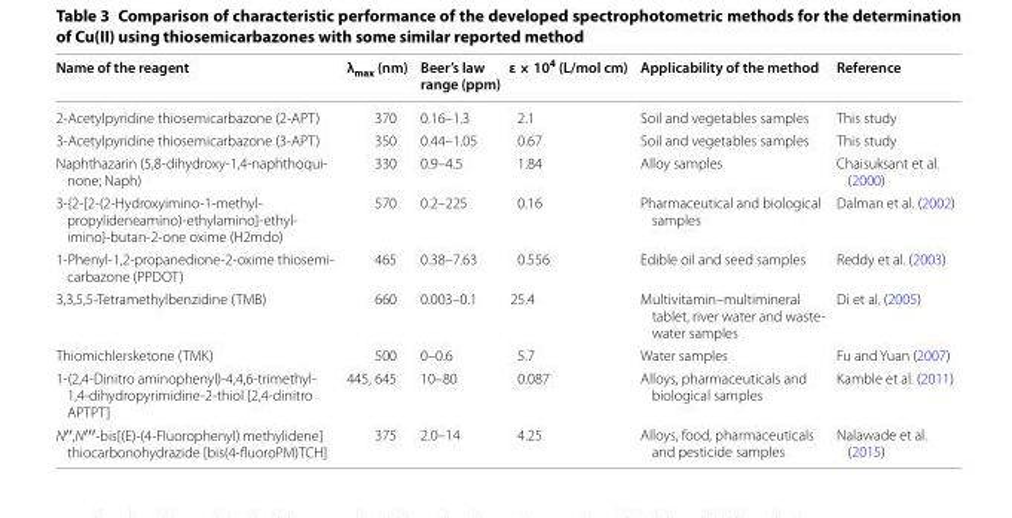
<table><thead><tr><td>Name of the reagent</td><td>λ<sub>max</sub> (nm)</td><td>Beer’s law range (ppm)</td><td>ε × 10<sup>4</sup> (L/mol cm)</td><td>Applicability of the method</td><td>Reference</td></tr></thead><tbody><tr><td>2-Acetylpyridine thiosemicarbazone (2-APT)</td><td>370</td><td>0.16–1.3</td><td>2.1</td><td>Soil and vegetables samples</td><td>This study</td></tr><tr><td>3-Acetylpyridine thiosemicarbazone (3-APT)</td><td>350</td><td>0.44–1.05</td><td>0.67</td><td>Soil and vegetables samples</td><td>This study</td></tr><tr><td>Naphthazarin (5,8-dihydroxy-1,4-naphthoqui- none; Naph)</td><td>330</td><td>0.9–4.5</td><td>1.84</td><td>Alloy samples</td><td>Chaisuksant et al. (2000)</td></tr><tr><td>3-{2-[2-(2-Hydroxyimino-1-methyl- propylideneamino)-ethylamino]-ethyl- imino}-butan-2-one oxime (H2mdo)</td><td>570</td><td>0.2–225</td><td>0.16</td><td>Pharmaceutical and biological samples</td><td>Dalman et al. (2002)</td></tr><tr><td>1-Phenyl-1,2-propanedione-2-oxime thiosemi- carbazone (PPDOT)</td><td>465</td><td>0.38–7.63</td><td>0.556</td><td>Edible oil and seed samples</td><td>Reddy et al. (2003)</td></tr><tr><td>3,3,5,5-Tetramethylbenzidine (TMB)</td><td>660</td><td>0.003–0.1</td><td>25.4</td><td>Multivitamin–multimineral tablet, river water and waste- water samples</td><td>Di et al. (2005)</td></tr><tr><td>Thiomichlersketone (TMK)</td><td>500</td><td>0–0.6</td><td>5.7</td><td>Water samples</td><td>Fu and Yuan (2007)</td></tr><tr><td>1-(2,4-Dinitro aminophenyl)-4,4,6-trimethyl- 1,4-dihydropyrimidine-2-thiol [2,4-dinitro APTPT]</td><td>445, 645</td><td>10–80</td><td>0.087</td><td>Alloys, pharmaceuticals and biological samples</td><td>Kamble et al. (2011)</td></tr><tr><td>N′′,N′′′-bis[(E)-(4-Fluorophenyl) methylidene] thiocarbonohydrazide [bis(4-fluoroPM)TCH]</td><td>375</td><td>2.0–14</td><td>4.25</td><td>Alloys, food, pharmaceuticals and pesticide samples</td><td>Nalawade et al. (2015)</td></tr></tbody></table>